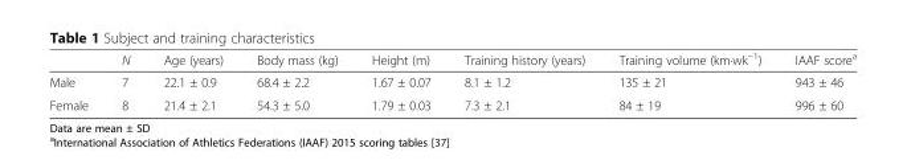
<table><thead><tr><td></td><td>N</td><td>Age (years)</td><td>Body mass (kg)</td><td>Height (m)</td><td>Training history (years)</td><td>Training volume (km·wk<sup>−1</sup>)</td><td>IAAF score<sup>a</sup></td></tr></thead><tbody><tr><td>Male</td><td>7</td><td>22.1 ± 0.9</td><td>68.4 ± 2.2</td><td>1.67 ± 0.07</td><td>8.1 ± 1.2</td><td>135 ± 21</td><td>943 ± 46</td></tr><tr><td>Female</td><td>8</td><td>21.4 ± 2.1</td><td>54.3 ± 5.0</td><td>1.79 ± 0.03</td><td>7.3 ± 2.1</td><td>84 ± 19</td><td>996 ± 60</td></tr></tbody></table>